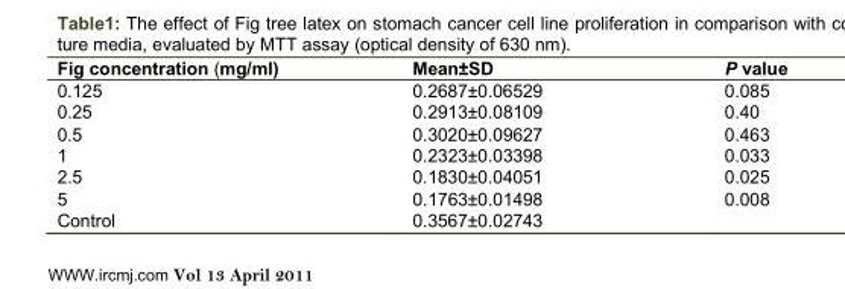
<table><thead><tr><td>Fig concentration (mg/ml)</td><td>Mean±SD</td><td>P value</td></tr></thead><tbody><tr><td>0.125</td><td>0.2687±0.06529</td><td>0.085</td></tr><tr><td>0.25</td><td>0.2913±0.08109</td><td>0.40</td></tr><tr><td>0.5</td><td>0.3020±0.09627</td><td>0.463</td></tr><tr><td>1</td><td>0.2323±0.03398</td><td>0.033</td></tr><tr><td>2.5</td><td>0.1830±0.04051</td><td>0.025</td></tr><tr><td>5</td><td>0.1763±0.01498</td><td>0.008</td></tr><tr><td>Control</td><td>0.3567±0.02743</td><td></td></tr></tbody></table>